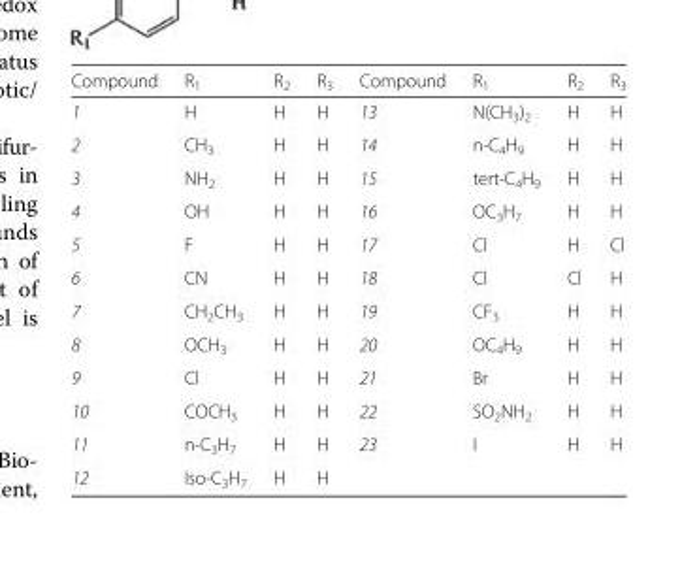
<table><thead><tr><td>Compound</td><td>R<sub>1</sub></td><td>R<sub>2</sub></td><td>R<sub>3</sub></td><td>Compound</td><td>R<sub>1</sub></td><td>R<sub>2</sub></td><td>R<sub>3</sub></td></tr></thead><tbody><tr><td>1</td><td>H</td><td>H</td><td>H</td><td>13</td><td>N(CH<sub>3</sub>)<sub>2</sub></td><td>H</td><td>H</td></tr><tr><td>2</td><td>CH<sub>3</sub></td><td>H</td><td>H</td><td>14</td><td>n-C<sub>4</sub>H<sub>9</sub></td><td>H</td><td>H</td></tr><tr><td>3</td><td>NH<sub>2</sub></td><td>H</td><td>H</td><td>15</td><td>tert-C<sub>4</sub>H<sub>9</sub></td><td>H</td><td>H</td></tr><tr><td>4</td><td>OH</td><td>H</td><td>H</td><td>16</td><td>OC<sub>3</sub>H<sub>7</sub></td><td>H</td><td>H</td></tr><tr><td>5</td><td>F</td><td>H</td><td>H</td><td>17</td><td>Cl</td><td>H</td><td>Cl</td></tr><tr><td>6</td><td>CN</td><td>H</td><td>H</td><td>18</td><td>Cl</td><td>Cl</td><td>H</td></tr><tr><td>7</td><td>CH<sub>2</sub>CH<sub>3</sub></td><td>H</td><td>H</td><td>19</td><td>CF<sub>3</sub></td><td>H</td><td>H</td></tr><tr><td>8</td><td>OCH<sub>3</sub></td><td>H</td><td>H</td><td>20</td><td>OC<sub>4</sub>H<sub>9</sub></td><td>H</td><td>H</td></tr><tr><td>9</td><td>Cl</td><td>H</td><td>H</td><td>21</td><td>Br</td><td>H</td><td>H</td></tr><tr><td>10</td><td>COCH<sub>3</sub></td><td>H</td><td>H</td><td>22</td><td>SO<sub>2</sub>NH<sub>2</sub></td><td>H</td><td>H</td></tr><tr><td>11</td><td>n-C<sub>3</sub>H<sub>7</sub></td><td>H</td><td>H</td><td>23</td><td>I</td><td>H</td><td>H</td></tr><tr><td>12</td><td>Iso-C<sub>3</sub>H<sub>7</sub></td><td>H</td><td>H</td><td></td><td></td><td></td><td></td></tr></tbody></table>